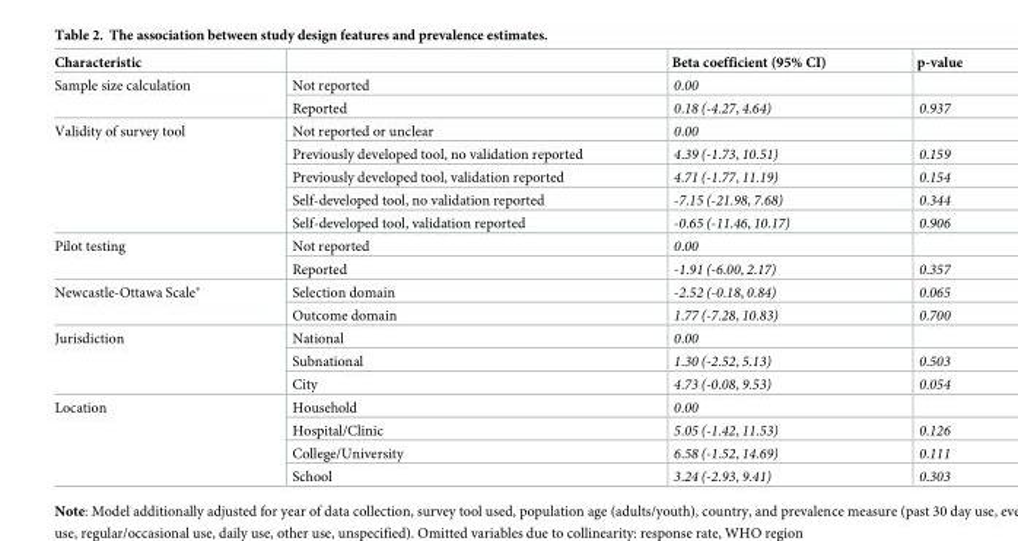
<table><thead><tr><td>Characteristic</td><td></td><td>Beta coefficient (95% CI)</td><td>p-value</td></tr></thead><tbody><tr><td rowspan="2">Sample size calculation</td><td>Not reported</td><td>0.00</td><td></td></tr><tr><td>Reported</td><td>0.18 (-4.27, 4.64)</td><td>0.937</td></tr><tr><td rowspan="5">Validity of survey tool</td><td>Not reported or unclear</td><td>0.00</td><td></td></tr><tr><td>Previously developed tool, no validation reported</td><td>4.39 (-1.73, 10.51)</td><td>0.159</td></tr><tr><td>Previously developed tool, validation reported</td><td>4.71 (-1.77, 11.19)</td><td>0.154</td></tr><tr><td>Self-developed tool, no validation reported</td><td>-7.15 (-21.98, 7.68)</td><td>0.344</td></tr><tr><td>Self-developed tool, validation reported</td><td>-0.65 (-11.46, 10.17)</td><td>0.906</td></tr><tr><td rowspan="2">Pilot testing</td><td>Not reported</td><td>0.00</td><td></td></tr><tr><td>Reported</td><td>-1.91 (-6.00, 2.17)</td><td>0.357</td></tr><tr><td rowspan="2">Newcastle-Ottawa Scale*</td><td>Selection domain</td><td>-2.52 (-0.18, 0.84)</td><td>0.065</td></tr><tr><td>Outcome domain</td><td>1.77 (-7.28, 10.83)</td><td>0.700</td></tr><tr><td rowspan="3">Jurisdiction</td><td>National</td><td>0.00</td><td></td></tr><tr><td>Subnational</td><td>1.30 (-2.52, 5.13)</td><td>0.503</td></tr><tr><td>City</td><td>4.73 (-0.08, 9.53)</td><td>0.054</td></tr><tr><td rowspan="4">Location</td><td>Household</td><td>0.00</td><td></td></tr><tr><td>Hospital/Clinic</td><td>5.05 (-1.42, 11.53)</td><td>0.126</td></tr><tr><td>College/University</td><td>6.58 (-1.52, 14.69)</td><td>0.111</td></tr><tr><td>School</td><td>3.24 (-2.93, 9.41)</td><td>0.303</td></tr></tbody></table>